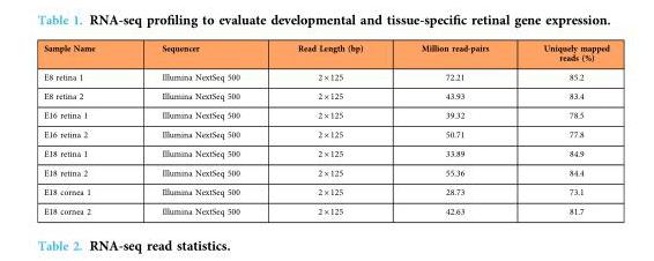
<table><thead><tr><td>Sample Name</td><td>Sequencer</td><td>Read Length (bp)</td><td>Million read-pairs</td><td>Uniquely mapped reads (%)</td></tr></thead><tbody><tr><td>E8 retina 1</td><td>Illumina NextSeq 500</td><td>2 × 125</td><td>72.21</td><td>85.2</td></tr><tr><td>E8 retina 2</td><td>Illumina NextSeq 500</td><td>2 × 125</td><td>43.93</td><td>83.4</td></tr><tr><td>E16 retina 1</td><td>Illumina NextSeq 500</td><td>2 × 125</td><td>39.32</td><td>78.5</td></tr><tr><td>E16 retina 2</td><td>Illumina NextSeq 500</td><td>2 × 125</td><td>50.71</td><td>77.8</td></tr><tr><td>E18 retina 1</td><td>Illumina NextSeq 500</td><td>2 × 125</td><td>33.89</td><td>84.9</td></tr><tr><td>E18 retina 2</td><td>Illumina NextSeq 500</td><td>2 × 125</td><td>55.36</td><td>84.4</td></tr><tr><td>E18 cornea 1</td><td>Illumina NextSeq 500</td><td>2 × 125</td><td>28.73</td><td>73.1</td></tr><tr><td>E18 cornea 2</td><td>Illumina NextSeq 500</td><td>2 × 125</td><td>42.63</td><td>81.7</td></tr></tbody></table>